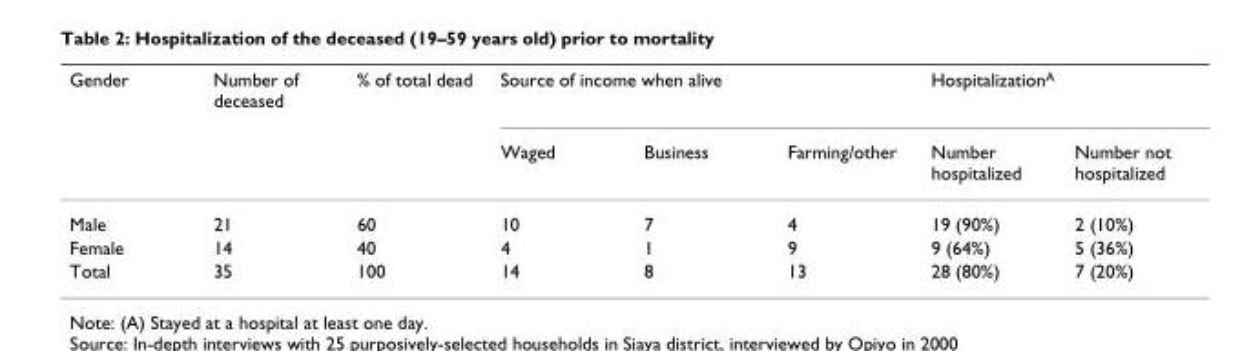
<table><thead><tr><td rowspan="2">Gender</td><td rowspan="2">Number of deceased</td><td rowspan="2">% of total dead</td><td colspan="3">Source of income when alive</td><td colspan="2">Hospitalization<sup>A</sup></td></tr><tr><td>Waged</td><td>Business</td><td>Farming/other</td><td>Number hospitalized</td><td>Number not hospitalized</td></tr></thead><tbody><tr><td>Male</td><td>21</td><td>60</td><td>10</td><td>7</td><td>4</td><td>19 (90%)</td><td>2 (10%)</td></tr><tr><td>Female</td><td>14</td><td>40</td><td>4</td><td>1</td><td>9</td><td>9 (64%)</td><td>5 (36%)</td></tr><tr><td>Total</td><td>35</td><td>100</td><td>14</td><td>8</td><td>13</td><td>28 (80%)</td><td>7 (20%)</td></tr></tbody></table>